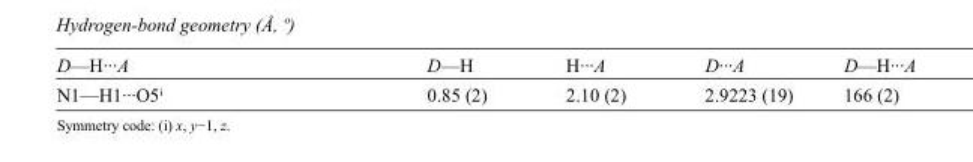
<table><tbody><tr><td>D—H···A</td><td>D—H</td><td>H···A</td><td>D···A</td><td>D—H···A</td></tr><tr><td>N1—H1···O5<sup>i</sup></td><td>0.85 (2)</td><td>2.10 (2)</td><td>2.9223 (19)</td><td>166 (2)</td></tr></tbody></table>